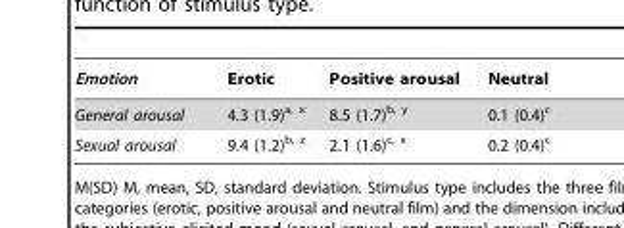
<table><thead><tr><td>Emotion</td><td>Erotic</td><td>Positive arousal</td><td>Neutral</td></tr></thead><tbody><tr><td>General arousal</td><td>4.3 (1.9)<sup>a, x</sup></td><td>8.5 (1.7)<sup>b, y</sup></td><td>0.1 (0.4)<sup>c</sup></td></tr><tr><td>Sexual arousal</td><td>9.4 (1.2)<sup>b, z</sup></td><td>2.1 (1.6)<sup>c, x</sup></td><td>0.2 (0.4)<sup>c</sup></td></tr></tbody></table>